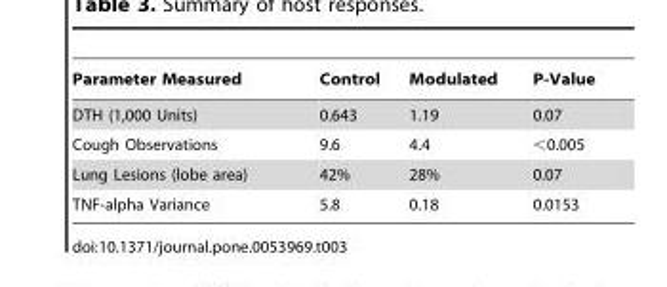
<table><thead><tr><td>Parameter Measured</td><td>Control</td><td>Modulated</td><td>P-Value</td></tr></thead><tbody><tr><td>DTH (1,000 Units)</td><td>0.643</td><td>1.19</td><td>0.07</td></tr><tr><td>Cough Observations</td><td>9.6</td><td>4.4</td><td>&lt;0.005</td></tr><tr><td>Lung Lesions (lobe area)</td><td>42%</td><td>28%</td><td>0.07</td></tr><tr><td>TNF-alpha Variance</td><td>5.8</td><td>0.18</td><td>0.0153</td></tr></tbody></table>